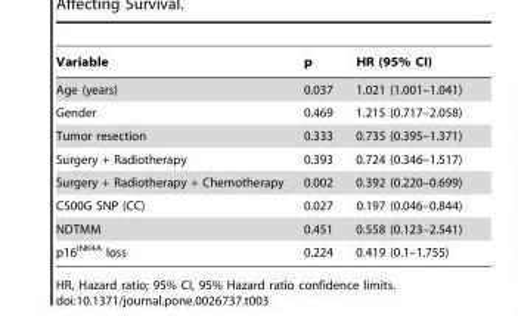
<table><thead><tr><td>Variable</td><td>p</td><td>HR (95% CI)</td></tr></thead><tbody><tr><td>Age (years)</td><td>0.037</td><td>1.021 (1.001–1.041)</td></tr><tr><td>Gender</td><td>0.469</td><td>1.215 (0.717–2.058)</td></tr><tr><td>Tumor resection</td><td>0.333</td><td>0.735 (0.395–1.371)</td></tr><tr><td>Surgery + Radiotherapy</td><td>0.393</td><td>0.724 (0.346–1.517)</td></tr><tr><td>Surgery + Radiotherapy + Chemotherapy</td><td>0.002</td><td>0.392 (0.220–0.699)</td></tr><tr><td>C500G SNP (CC)</td><td>0.027</td><td>0.197 (0.046–0.844)</td></tr><tr><td>NDTMM</td><td>0.451</td><td>0.558 (0.123–2.541)</td></tr><tr><td>p16<sup>INK4A</sup> loss</td><td>0.224</td><td>0.419 (0.1–1.755)</td></tr></tbody></table>